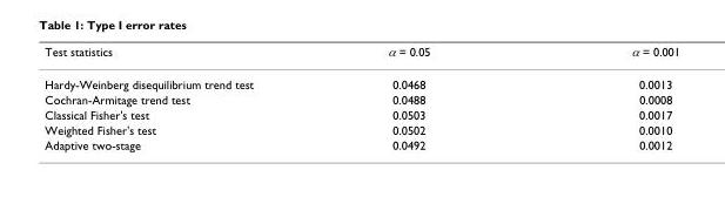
<table><thead><tr><td>Test statistics</td><td>α = 0.05</td><td>α = 0.001</td></tr></thead><tbody><tr><td>Hardy-Weinberg disequilibrium trend test</td><td>0.0468</td><td>0.0013</td></tr><tr><td>Cochran-Armitage trend test</td><td>0.0488</td><td>0.0008</td></tr><tr><td>Classical Fisher&#x27;s test</td><td>0.0503</td><td>0.0017</td></tr><tr><td>Weighted Fisher&#x27;s test</td><td>0.0502</td><td>0.0010</td></tr><tr><td>Adaptive two-stage</td><td>0.0492</td><td>0.0012</td></tr></tbody></table>